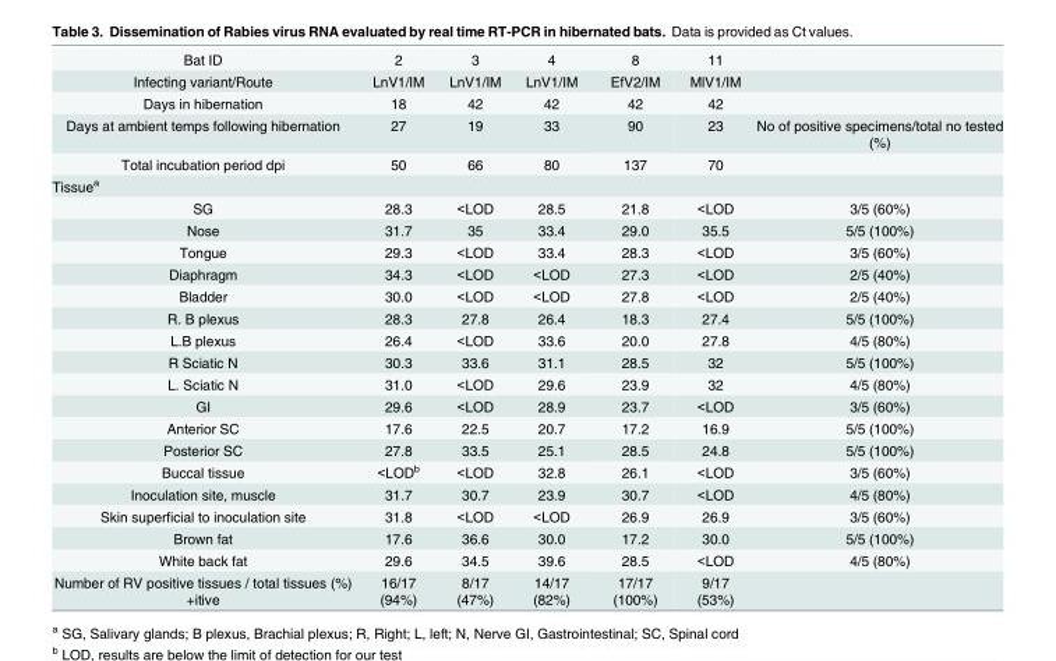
<table><tbody><tr><td>Bat ID</td><td>2</td><td>3</td><td>4</td><td>8</td><td>11</td><td></td></tr><tr><td>Infecting variant/Route</td><td>LnV1/IM</td><td>LnV1/IM</td><td>LnV1/IM</td><td>EfV2/IM</td><td>MlV1/IM</td><td></td></tr><tr><td>Days in hibernation</td><td>18</td><td>42</td><td>42</td><td>42</td><td>42</td><td></td></tr><tr><td>Days at ambient temps following hibernation</td><td>27</td><td>19</td><td>33</td><td>90</td><td>23</td><td>No of positive specimens/total no tested (%)</td></tr><tr><td>Total incubation period dpi</td><td>50</td><td>66</td><td>80</td><td>137</td><td>70</td><td></td></tr><tr><td colspan="7">Tissue<sup>a</sup></td></tr><tr><td>SG</td><td>28.3</td><td>&lt;LOD</td><td>28.5</td><td>21.8</td><td>&lt;LOD</td><td>3/5 (60%)</td></tr><tr><td>Nose</td><td>31.7</td><td>35</td><td>33.4</td><td>29.0</td><td>35.5</td><td>5/5 (100%)</td></tr><tr><td>Tongue</td><td>29.3</td><td>&lt;LOD</td><td>33.4</td><td>28.3</td><td>&lt;LOD</td><td>3/5 (60%)</td></tr><tr><td>Diaphragm</td><td>34.3</td><td>&lt;LOD</td><td>&lt;LOD</td><td>27.3</td><td>&lt;LOD</td><td>2/5 (40%)</td></tr><tr><td>Bladder</td><td>30.0</td><td>&lt;LOD</td><td>&lt;LOD</td><td>27.8</td><td>&lt;LOD</td><td>2/5 (40%)</td></tr><tr><td>R. B plexus</td><td>28.3</td><td>27.8</td><td>26.4</td><td>18.3</td><td>27.4</td><td>5/5 (100%)</td></tr><tr><td>L.B plexus</td><td>26.4</td><td>&lt;LOD</td><td>33.6</td><td>20.0</td><td>27.8</td><td>4/5 (80%)</td></tr><tr><td>R Sciatic N</td><td>30.3</td><td>33.6</td><td>31.1</td><td>28.5</td><td>32</td><td>5/5 (100%)</td></tr><tr><td>L. Sciatic N</td><td>31.0</td><td>&lt;LOD</td><td>29.6</td><td>23.9</td><td>32</td><td>4/5 (80%)</td></tr><tr><td>GI</td><td>29.6</td><td>&lt;LOD</td><td>28.9</td><td>23.7</td><td>&lt;LOD</td><td>3/5 (60%)</td></tr><tr><td>Anterior SC</td><td>17.6</td><td>22.5</td><td>20.7</td><td>17.2</td><td>16.9</td><td>5/5 (100%)</td></tr><tr><td>Posterior SC</td><td>27.8</td><td>33.5</td><td>25.1</td><td>28.5</td><td>24.8</td><td>5/5 (100%)</td></tr><tr><td>Buccal tissue</td><td>&lt;LOD<sup>b</sup></td><td>&lt;LOD</td><td>32.8</td><td>26.1</td><td>&lt;LOD</td><td>3/5 (60%)</td></tr><tr><td>Inoculation site, muscle</td><td>31.7</td><td>30.7</td><td>23.9</td><td>30.7</td><td>&lt;LOD</td><td>4/5 (80%)</td></tr><tr><td>Skin superficial to inoculation site</td><td>31.8</td><td>&lt;LOD</td><td>&lt;LOD</td><td>26.9</td><td>26.9</td><td>3/5 (60%)</td></tr><tr><td>Brown fat</td><td>17.6</td><td>36.6</td><td>30.0</td><td>17.2</td><td>30.0</td><td>5/5 (100%)</td></tr><tr><td>White back fat</td><td>29.6</td><td>34.5</td><td>39.6</td><td>28.5</td><td>&lt;LOD</td><td>4/5 (80%)</td></tr><tr><td>Number of RV positive tissues / total tissues (%) +itive</td><td>16/17 (94%)</td><td>8/17 (47%)</td><td>14/17 (82%)</td><td>17/17 (100%)</td><td>9/17 (53%)</td><td></td></tr></tbody></table>